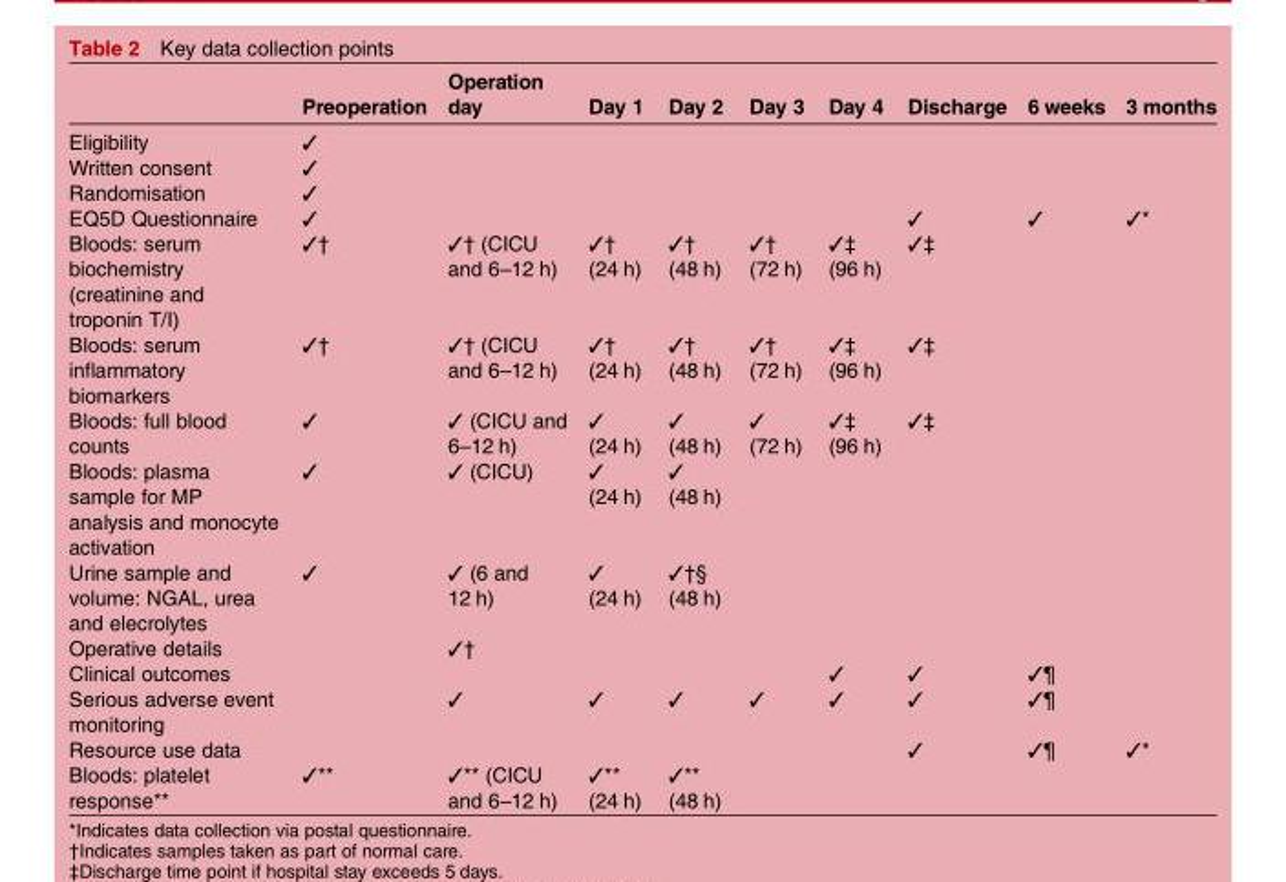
<table><thead><tr><td></td><td>Preoperation</td><td>Operation day</td><td>Day 1</td><td>Day 2</td><td>Day 3</td><td>Day 4</td><td>Discharge</td><td>6 weeks</td><td>3 months</td></tr></thead><tbody><tr><td>Eligibility</td><td>✓</td><td></td><td></td><td></td><td></td><td></td><td></td><td></td><td></td></tr><tr><td>Written consent</td><td>✓</td><td></td><td></td><td></td><td></td><td></td><td></td><td></td><td></td></tr><tr><td>Randomisation</td><td>✓</td><td></td><td></td><td></td><td></td><td></td><td></td><td></td><td></td></tr><tr><td>EQ5D Questionnaire</td><td>✓</td><td></td><td></td><td></td><td></td><td></td><td>✓</td><td>✓</td><td>✓*</td></tr><tr><td>Bloods: serum biochemistry (creatinine and troponin T/I)</td><td>✓†</td><td>✓† (CICU and 6–12 h)</td><td>✓† (24 h)</td><td>✓† (48 h)</td><td>✓† (72 h)</td><td>✓‡ (96 h)</td><td>✓‡</td><td></td><td></td></tr><tr><td>Bloods: serum inflammatory biomarkers</td><td>✓†</td><td>✓† (CICU and 6–12 h)</td><td>✓† (24 h)</td><td>✓† (48 h)</td><td>✓† (72 h)</td><td>✓‡ (96 h)</td><td>✓‡</td><td></td><td></td></tr><tr><td>Bloods: full blood counts</td><td>✓</td><td>✓ (CICU and 6–12 h)</td><td>✓ (24 h)</td><td>✓ (48 h)</td><td>✓ (72 h)</td><td>✓‡ (96 h)</td><td>✓‡</td><td></td><td></td></tr><tr><td>Bloods: plasma sample for MP analysis and monocyte activation</td><td>✓</td><td>✓ (CICU)</td><td>✓ (24 h)</td><td>✓ (48 h)</td><td></td><td></td><td></td><td></td><td></td></tr><tr><td>Urine sample and volume: NGAL, urea and elecrolytes</td><td>✓</td><td>✓ (6 and 12 h)</td><td>✓ (24 h)</td><td>✓†§ (48 h)</td><td></td><td></td><td></td><td></td><td></td></tr><tr><td>Operative details</td><td></td><td>✓†</td><td></td><td></td><td></td><td></td><td></td><td></td><td></td></tr><tr><td>Clinical outcomes</td><td></td><td></td><td></td><td></td><td></td><td>✓</td><td>✓</td><td>✓¶</td><td></td></tr><tr><td>Serious adverse event monitoring</td><td></td><td>✓</td><td>✓</td><td>✓</td><td>✓</td><td>✓</td><td>✓</td><td>✓¶</td><td></td></tr><tr><td>Resource use data</td><td></td><td></td><td></td><td></td><td></td><td></td><td>✓</td><td>✓¶</td><td>✓*</td></tr><tr><td>Bloods: platelet response**</td><td>✓**</td><td>✓** (CICU and 6–12 h)</td><td>✓** (24 h)</td><td>✓** (48 h)</td><td></td><td></td><td></td><td></td><td></td></tr></tbody></table>